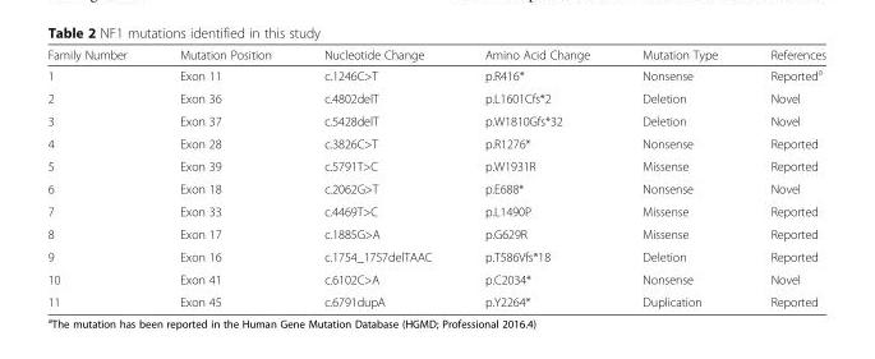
<table><thead><tr><td>Family Number</td><td>Mutation Position</td><td>Nucleotide Change</td><td>Amino Acid Change</td><td>Mutation Type</td><td>References</td></tr></thead><tbody><tr><td>1</td><td>Exon 11</td><td>c.1246C&gt;T</td><td>p.R416*</td><td>Nonsense</td><td>Reported<sup>a</sup></td></tr><tr><td>2</td><td>Exon 36</td><td>c.4802delT</td><td>p.L1601Cfs*2</td><td>Deletion</td><td>Novel</td></tr><tr><td>3</td><td>Exon 37</td><td>c.5428delT</td><td>p.W1810Gfs*32</td><td>Deletion</td><td>Novel</td></tr><tr><td>4</td><td>Exon 28</td><td>c.3826C&gt;T</td><td>p.R1276*</td><td>Nonsense</td><td>Reported</td></tr><tr><td>5</td><td>Exon 39</td><td>c.5791T&gt;C</td><td>p.W1931R</td><td>Missense</td><td>Reported</td></tr><tr><td>6</td><td>Exon 18</td><td>c.2062G&gt;T</td><td>p.E688*</td><td>Nonsense</td><td>Novel</td></tr><tr><td>7</td><td>Exon 33</td><td>c.4469T&gt;C</td><td>p.L1490P</td><td>Missense</td><td>Reported</td></tr><tr><td>8</td><td>Exon 17</td><td>c.1885G&gt;A</td><td>p.G629R</td><td>Missense</td><td>Reported</td></tr><tr><td>9</td><td>Exon 16</td><td>c.1754_1757delTAAC</td><td>p.T586Vfs*18</td><td>Deletion</td><td>Reported</td></tr><tr><td>10</td><td>Exon 41</td><td>c.6102C&gt;A</td><td>p.C2034*</td><td>Nonsense</td><td>Novel</td></tr><tr><td>11</td><td>Exon 45</td><td>c.6791dupA</td><td>p.Y2264*</td><td>Duplication</td><td>Reported</td></tr></tbody></table>